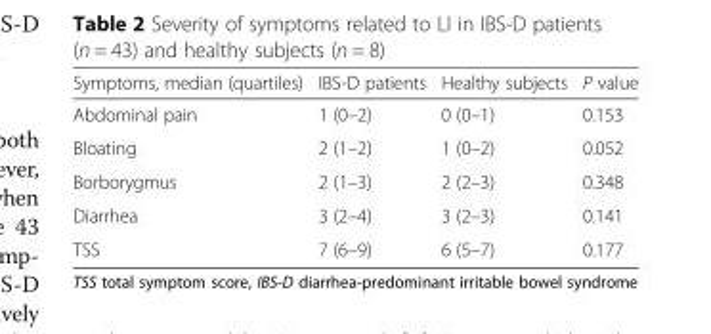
<table><thead><tr><td>Symptoms, median (quartiles)</td><td>IBS-D patients</td><td>Healthy subjects</td><td>P value</td></tr></thead><tbody><tr><td>Abdominal pain</td><td>1 (0–2)</td><td>0 (0–1)</td><td>0.153</td></tr><tr><td>Bloating</td><td>2 (1–2)</td><td>1 (0–2)</td><td>0.052</td></tr><tr><td>Borborygmus</td><td>2 (1–3)</td><td>2 (2–3)</td><td>0.348</td></tr><tr><td>Diarrhea</td><td>3 (2–4)</td><td>3 (2–3)</td><td>0.141</td></tr><tr><td>TSS</td><td>7 (6–9)</td><td>6 (5–7)</td><td>0.177</td></tr></tbody></table>